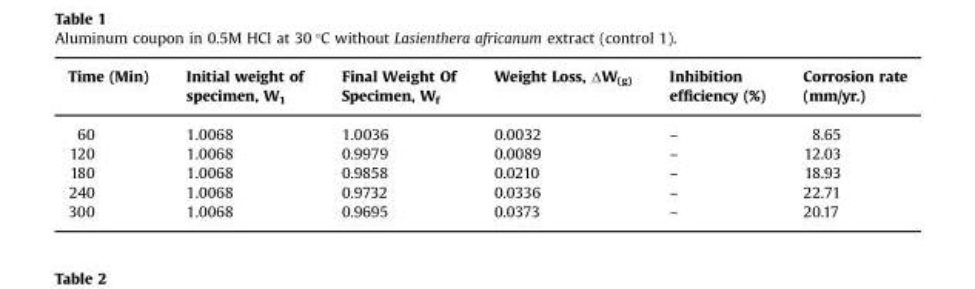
<table><thead><tr><td>Time (Min)</td><td>Initial weight of specimen, W<sub>1</sub></td><td>Final Weight Of Specimen, W<sub>f</sub></td><td>Weight Loss, ΔW(g)</td><td>Inhibition efficiency (%)</td><td>Corrosion rate (mm/yr.)</td></tr></thead><tbody><tr><td>60</td><td>1.0068</td><td>1.0036</td><td>0.0032</td><td>–</td><td>8.65</td></tr><tr><td>120</td><td>1.0068</td><td>0.9979</td><td>0.0089</td><td>–</td><td>12.03</td></tr><tr><td>180</td><td>1.0068</td><td>0.9858</td><td>0.0210</td><td>–</td><td>18.93</td></tr><tr><td>240</td><td>1.0068</td><td>0.9732</td><td>0.0336</td><td>–</td><td>22.71</td></tr><tr><td>300</td><td>1.0068</td><td>0.9695</td><td>0.0373</td><td>–</td><td>20.17</td></tr></tbody></table>